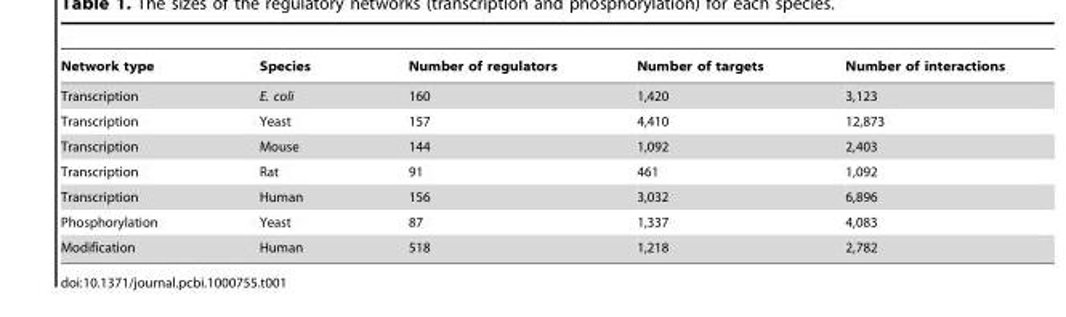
<table><thead><tr><td>Network type</td><td>Species</td><td>Number of regulators</td><td>Number of targets</td><td>Number of interactions</td></tr></thead><tbody><tr><td>Transcription</td><td>E. coli</td><td>160</td><td>1,420</td><td>3,123</td></tr><tr><td>Transcription</td><td>Yeast</td><td>157</td><td>4,410</td><td>12,873</td></tr><tr><td>Transcription</td><td>Mouse</td><td>144</td><td>1,092</td><td>2,403</td></tr><tr><td>Transcription</td><td>Rat</td><td>91</td><td>461</td><td>1,092</td></tr><tr><td>Transcription</td><td>Human</td><td>156</td><td>3,032</td><td>6,896</td></tr><tr><td>Phosphorylation</td><td>Yeast</td><td>87</td><td>1,337</td><td>4,083</td></tr><tr><td>Modification</td><td>Human</td><td>518</td><td>1,218</td><td>2,782</td></tr></tbody></table>